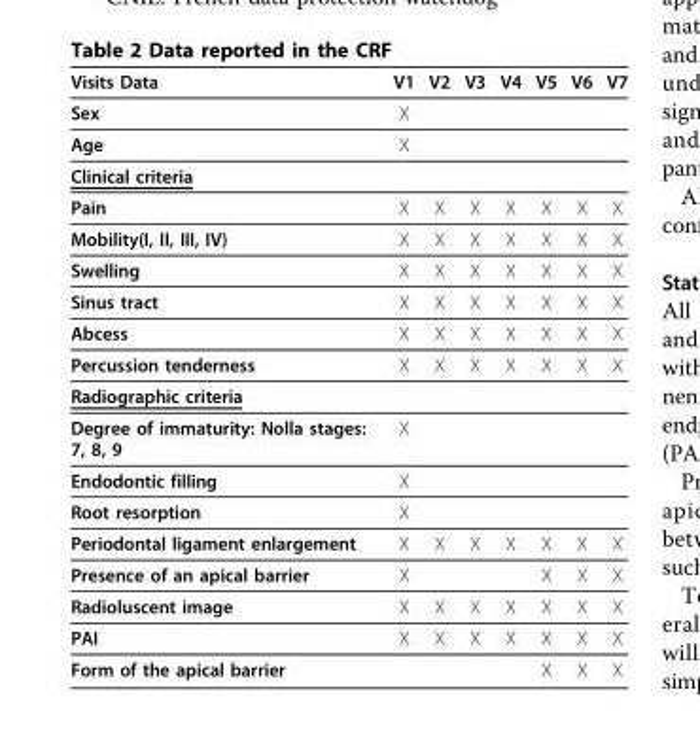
<table><thead><tr><td>Visits Data</td><td>V1</td><td>V2</td><td>V3</td><td>V4</td><td>V5</td><td>V6</td><td>V7</td></tr></thead><tbody><tr><td>Sex</td><td>X</td><td></td><td></td><td></td><td></td><td></td><td></td></tr><tr><td>Age</td><td>X</td><td></td><td></td><td></td><td></td><td></td><td></td></tr><tr><td colspan="8">Clinical criteria</td></tr><tr><td>Pain</td><td>X</td><td>X</td><td>X</td><td>X</td><td>X</td><td>X</td><td>X</td></tr><tr><td>Mobility(I, II, III, IV)</td><td>X</td><td>X</td><td>X</td><td>X</td><td>X</td><td>X</td><td>X</td></tr><tr><td>Swelling</td><td>X</td><td>X</td><td>X</td><td>X</td><td>X</td><td>X</td><td>X</td></tr><tr><td>Sinus tract</td><td>X</td><td>X</td><td>X</td><td>X</td><td>X</td><td>X</td><td>X</td></tr><tr><td>Abcess</td><td>X</td><td>X</td><td>X</td><td>X</td><td>X</td><td>X</td><td>X</td></tr><tr><td>Percussion tenderness</td><td>X</td><td>X</td><td>X</td><td>X</td><td>X</td><td>X</td><td>X</td></tr><tr><td colspan="8">Radiographic criteria</td></tr><tr><td>Degree of immaturity: Nolla stages: 7, 8, 9</td><td>X</td><td></td><td></td><td></td><td></td><td></td><td></td></tr><tr><td>Endodontic filling</td><td>X</td><td></td><td></td><td></td><td></td><td></td><td></td></tr><tr><td>Root resorption</td><td>X</td><td></td><td></td><td></td><td></td><td></td><td></td></tr><tr><td>Periodontal ligament enlargement</td><td>X</td><td>X</td><td>X</td><td>X</td><td>X</td><td>X</td><td>X</td></tr><tr><td>Presence of an apical barrier</td><td>X</td><td></td><td></td><td></td><td>X</td><td>X</td><td>X</td></tr><tr><td>Radioluscent image</td><td>X</td><td>X</td><td>X</td><td>X</td><td>X</td><td>X</td><td>X</td></tr><tr><td>PAI</td><td>X</td><td>X</td><td>X</td><td>X</td><td>X</td><td>X</td><td>X</td></tr><tr><td>Form of the apical barrier</td><td></td><td></td><td></td><td></td><td>X</td><td>X</td><td>X</td></tr></tbody></table>